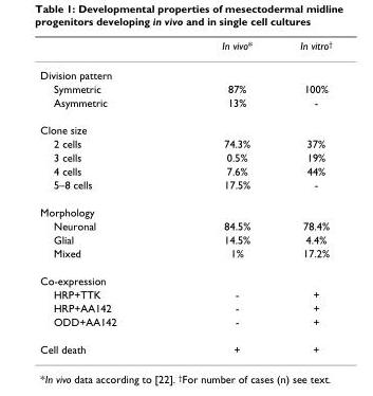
<table><thead><tr><td></td><td>In vivo*</td><td>In vitro<sup>†</sup></td></tr></thead><tbody><tr><td colspan="3">Division pattern</td></tr><tr><td>Symmetric</td><td>87%</td><td>100%</td></tr><tr><td>Asymmetric</td><td>13%</td><td>-</td></tr><tr><td colspan="3">Clone size</td></tr><tr><td>2 cells</td><td>74.3%</td><td>37%</td></tr><tr><td>3 cells</td><td>0.5%</td><td>19%</td></tr><tr><td>4 cells</td><td>7.6%</td><td>44%</td></tr><tr><td>5–8 cells</td><td>17.5%</td><td>-</td></tr><tr><td colspan="3">Morphology</td></tr><tr><td>Neuronal</td><td>84.5%</td><td>78.4%</td></tr><tr><td>Glial</td><td>14.5%</td><td>4.4%</td></tr><tr><td>Mixed</td><td>1%</td><td>17.2%</td></tr><tr><td colspan="3">Co-expression</td></tr><tr><td>HRP+TTK</td><td>-</td><td>+</td></tr><tr><td>HRP+AA142</td><td>-</td><td>+</td></tr><tr><td>ODD+AA142</td><td>-</td><td>+</td></tr><tr><td>Cell death</td><td>+</td><td>+</td></tr></tbody></table>